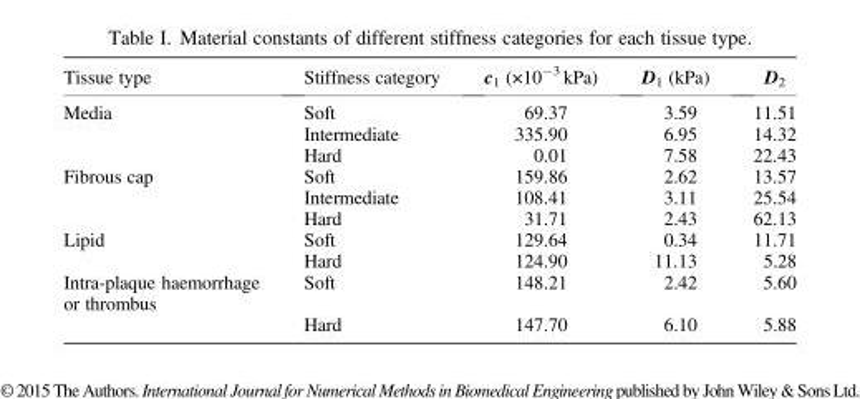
<table><thead><tr><td>Tissue type</td><td>Stiffness category</td><td>c<sub>1</sub> (×10<sup>−3</sup> kPa)</td><td>D<sub>1</sub> (kPa)</td><td>D<sub>2</sub></td></tr></thead><tbody><tr><td rowspan="3">Media</td><td>Soft</td><td>69.37</td><td>3.59</td><td>11.51</td></tr><tr><td>Intermediate</td><td>335.90</td><td>6.95</td><td>14.32</td></tr><tr><td>Hard</td><td>0.01</td><td>7.58</td><td>22.43</td></tr><tr><td rowspan="3">Fibrous cap</td><td>Soft</td><td>159.86</td><td>2.62</td><td>13.57</td></tr><tr><td>Intermediate</td><td>108.41</td><td>3.11</td><td>25.54</td></tr><tr><td>Hard</td><td>31.71</td><td>2.43</td><td>62.13</td></tr><tr><td rowspan="2">Lipid</td><td>Soft</td><td>129.64</td><td>0.34</td><td>11.71</td></tr><tr><td>Hard</td><td>124.90</td><td>11.13</td><td>5.28</td></tr><tr><td rowspan="2">Intra-plaque haemorrhage or thrombus</td><td>Soft</td><td>148.21</td><td>2.42</td><td>5.60</td></tr><tr><td>Hard</td><td>147.70</td><td>6.10</td><td>5.88</td></tr></tbody></table>